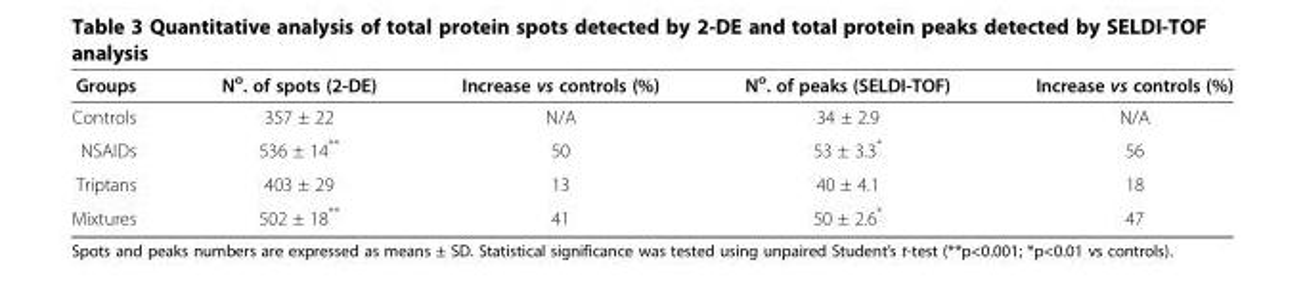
<table><thead><tr><td>Groups</td><td>N<sup>o</sup>. of spots (2-DE)</td><td>Increase vs controls (%)</td><td>N<sup>o</sup>. of peaks (SELDI-TOF)</td><td>Increase vs controls (%)</td></tr></thead><tbody><tr><td>Controls</td><td>357 ± 22</td><td>N/A</td><td>34 ± 2.9</td><td>N/A</td></tr><tr><td>NSAIDs</td><td>536 ± 14**</td><td>50</td><td>53 ± 3.3*</td><td>56</td></tr><tr><td>Triptans</td><td>403 ± 29</td><td>13</td><td>40 ± 4.1</td><td>18</td></tr><tr><td>Mixtures</td><td>502 ± 18**</td><td>41</td><td>50 ± 2.6*</td><td>47</td></tr></tbody></table>